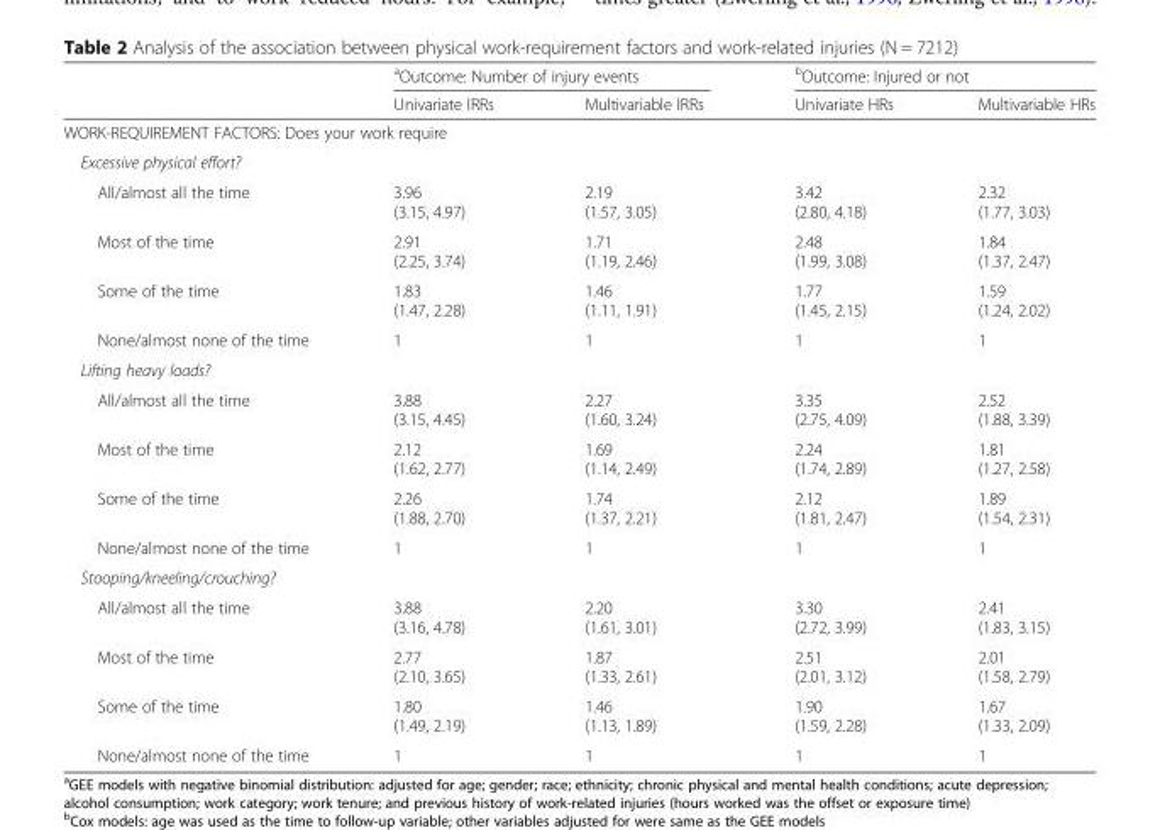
<table><thead><tr><td rowspan="2"></td><td colspan="2"><sup>a</sup>Outcome: Number of injury events</td><td colspan="2"><sup>b</sup>Outcome: Injured or not</td></tr><tr><td>Univariate IRRs</td><td>Multivariable IRRs</td><td>Univariate HRs</td><td>Multivariable HRs</td></tr></thead><tbody><tr><td colspan="5">WORK-REQUIREMENT FACTORS: Does your work require</td></tr><tr><td colspan="5">Excessive physical effort?</td></tr><tr><td>All/almost all the time</td><td>3.96 (3.15, 4.97)</td><td>2.19 (1.57, 3.05)</td><td>3.42 (2.80, 4.18)</td><td>2.32 (1.77, 3.03)</td></tr><tr><td>Most of the time</td><td>2.91 (2.25, 3.74)</td><td>1.71 (1.19, 2.46)</td><td>2.48 (1.99, 3.08)</td><td>1.84 (1.37, 2.47)</td></tr><tr><td>Some of the time</td><td>1.83 (1.47, 2.28)</td><td>1.46 (1.11, 1.91)</td><td>1.77 (1.45, 2.15)</td><td>1.59 (1.24, 2.02)</td></tr><tr><td>None/almost none of the time</td><td>1</td><td>1</td><td>1</td><td>1</td></tr><tr><td colspan="5">Lifting heavy loads?</td></tr><tr><td>All/almost all the time</td><td>3.88 (3.15, 4.45)</td><td>2.27 (1.60, 3.24)</td><td>3.35 (2.75, 4.09)</td><td>2.52 (1.88, 3.39)</td></tr><tr><td>Most of the time</td><td>2.12 (1.62, 2.77)</td><td>1.69 (1.14, 2.49)</td><td>2.24 (1.74, 2.89)</td><td>1.81 (1.27, 2.58)</td></tr><tr><td>Some of the time</td><td>2.26 (1.88, 2.70)</td><td>1.74 (1.37, 2.21)</td><td>2.12 (1.81, 2.47)</td><td>1.89 (1.54, 2.31)</td></tr><tr><td>None/almost none of the time</td><td>1</td><td>1</td><td>1</td><td>1</td></tr><tr><td colspan="5">Stooping/kneeling/crouching?</td></tr><tr><td>All/almost all the time</td><td>3.88 (3.16, 4.78)</td><td>2.20 (1.61, 3.01)</td><td>3.30 (2.72, 3.99)</td><td>2.41 (1.83, 3.15)</td></tr><tr><td>Most of the time</td><td>2.77 (2.10, 3.65)</td><td>1.87 (1.33, 2.61)</td><td>2.51 (2.01, 3.12)</td><td>2.01 (1.58, 2.79)</td></tr><tr><td>Some of the time</td><td>1.80 (1.49, 2.19)</td><td>1.46 (1.13, 1.89)</td><td>1.90 (1.59, 2.28)</td><td>1.67 (1.33, 2.09)</td></tr><tr><td>None/almost none of the time</td><td>1</td><td>1</td><td>1</td><td>1</td></tr></tbody></table>